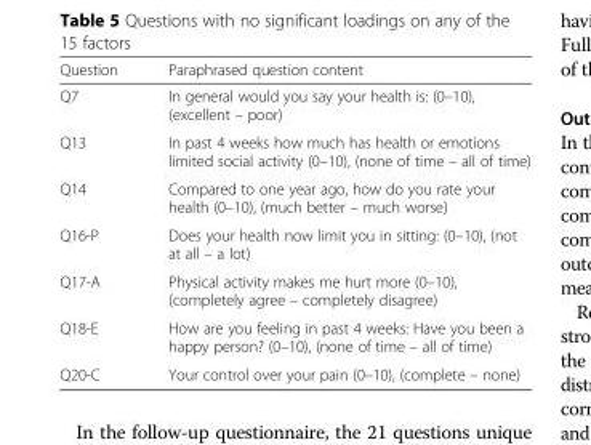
<table><thead><tr><td>Question</td><td>Paraphrased question content</td></tr></thead><tbody><tr><td>Q7</td><td>In general would you say your health is: (0–10), (excellent – poor)</td></tr><tr><td>Q13</td><td>In past 4 weeks how much has health or emotions limited social activity (0–10), (none of time – all of time)</td></tr><tr><td>Q14</td><td>Compared to one year ago, how do you rate your health (0–10), (much better – much worse)</td></tr><tr><td>Q16-P</td><td>Does your health now limit you in sitting: (0–10), (not at all – a lot)</td></tr><tr><td>Q17-A</td><td>Physical activity makes me hurt more (0–10), (completely agree – completely disagree)</td></tr><tr><td>Q18-E</td><td>How are you feeling in past 4 weeks: Have you been a happy person? (0–10), (none of time – all of time)</td></tr><tr><td>Q20-C</td><td>Your control over your pain (0–10), (complete – none)</td></tr></tbody></table>